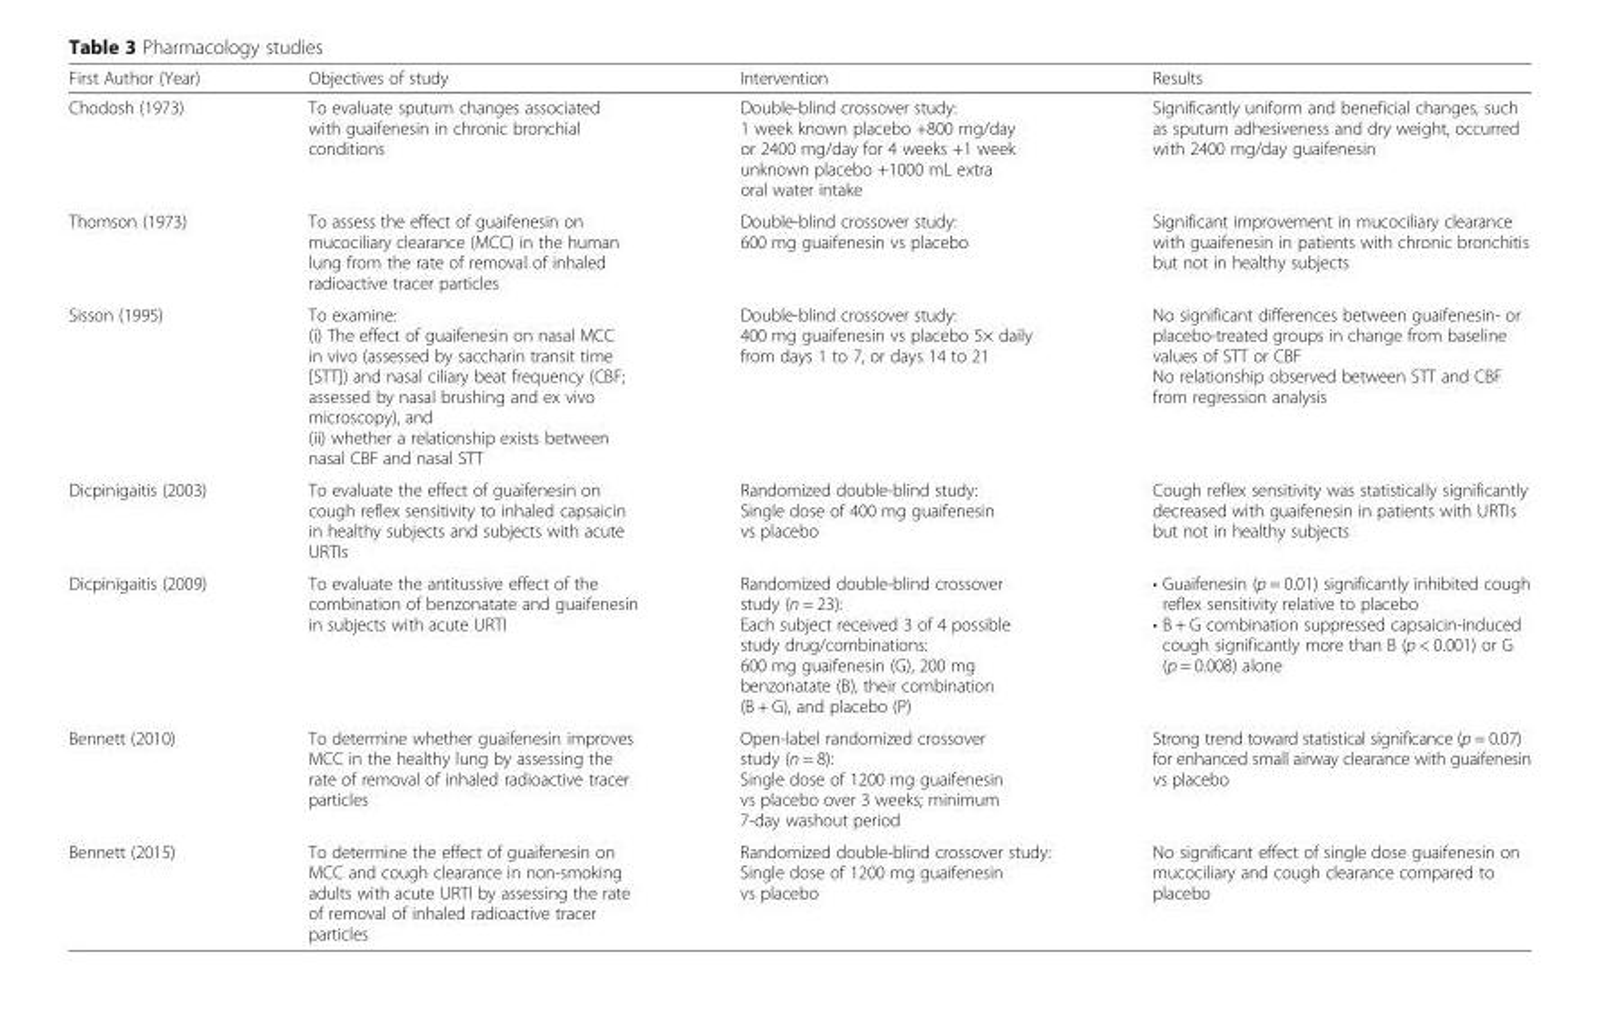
<table><thead><tr><td>First Author (Year)</td><td>Objectives of study</td><td>Intervention</td><td>Results</td></tr></thead><tbody><tr><td>Chodosh (1973)</td><td>To evaluate sputum changes associated with guaifenesin in chronic bronchial conditions</td><td>Double-blind crossover study: 1 week known placebo +800 mg/day or 2400 mg/day for 4 weeks +1 week unknown placebo +1000 mL extra oral water intake</td><td>Significantly uniform and beneficial changes, such as sputum adhesiveness and dry weight, occurred with 2400 mg/day guaifenesin</td></tr><tr><td>Thomson (1973)</td><td>To assess the effect of guaifenesin on mucociliary clearance (MCC) in the human lung from the rate of removal of inhaled radioactive tracer particles</td><td>Double-blind crossover study: 600 mg guaifenesin vs placebo</td><td>Significant improvement in mucociliary clearance with guaifenesin in patients with chronic bronchitis but not in healthy subjects</td></tr><tr><td>Sisson (1995)</td><td>To examine: (i) The effect of guaifenesin on nasal MCC in vivo (assessed by saccharin transit time [STT]) and nasal ciliary beat frequency (CBF; assessed by nasal brushing and ex vivo microscopy), and (ii) whether a relationship exists between nasal CBF and nasal STT</td><td>Double-blind crossover study: 400 mg guaifenesin vs placebo 5× daily from days 1 to 7, or days 14 to 21</td><td>No significant differences between guaifenesin- or placebo-treated groups in change from baseline values of STT or CBF No relationship observed between STT and CBF from regression analysis</td></tr><tr><td>Dicpinigaitis (2003)</td><td>To evaluate the effect of guaifenesin on cough reflex sensitivity to inhaled capsaicin in healthy subjects and subjects with acute URTIs</td><td>Randomized double-blind study: Single dose of 400 mg guaifenesin vs placebo</td><td>Cough reflex sensitivity was statistically significantly decreased with guaifenesin in patients with URTIs but not in healthy subjects</td></tr><tr><td>Dicpinigaitis (2009)</td><td>To evaluate the antitussive effect of the combination of benzonatate and guaifenesin in subjects with acute URTI</td><td>Randomized double-blind crossover study (n = 23): Each subject received 3 of 4 possible study drug/combinations: 600 mg guaifenesin (G), 200 mg benzonatate (B), their combination (B + G), and placebo (P)</td><td>• Guaifenesin (p = 0.01) significantly inhibited cough reflex sensitivity relative to placebo • B + G combination suppressed capsaicin-induced cough significantly more than B (p &lt; 0.001) or G (p = 0.008) alone</td></tr><tr><td>Bennett (2010)</td><td>To determine whether guaifenesin improves MCC in the healthy lung by assessing the rate of removal of inhaled radioactive tracer particles</td><td>Open-label randomized crossover study (n = 8): Single dose of 1200 mg guaifenesin vs placebo over 3 weeks; minimum 7-day washout period</td><td>Strong trend toward statistical significance (p = 0.07) for enhanced small airway clearance with guaifenesin vs placebo</td></tr><tr><td>Bennett (2015)</td><td>To determine the effect of guaifenesin on MCC and cough clearance in non-smoking adults with acute URTI by assessing the rate of removal of inhaled radioactive tracer particles</td><td>Randomized double-blind crossover study: Single dose of 1200 mg guaifenesin vs placebo</td><td>No significant effect of single dose guaifenesin on mucociliary and cough clearance compared to placebo</td></tr></tbody></table>